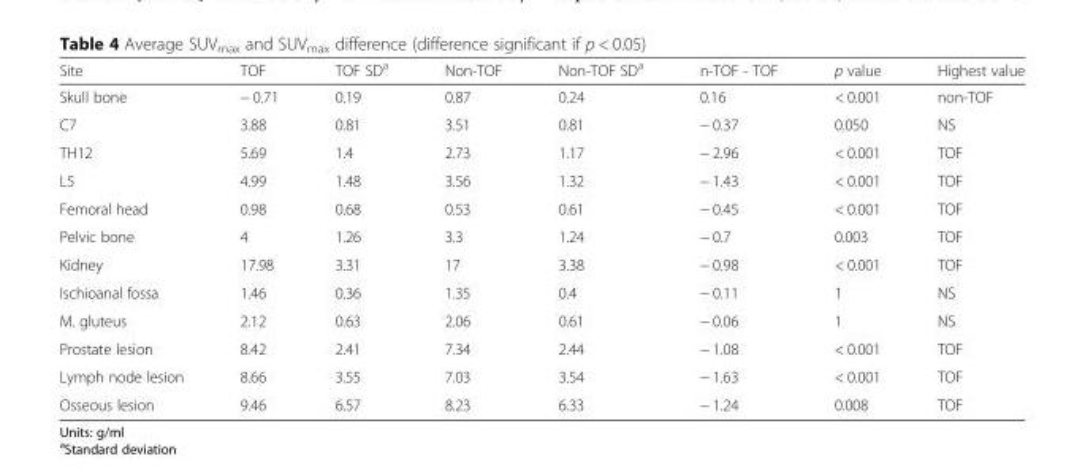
<table><thead><tr><td>Site</td><td>TOF</td><td>TOF SD<sup>a</sup></td><td>Non-TOF</td><td>Non-TOF SD<sup>a</sup></td><td>n-TOF - TOF</td><td>p value</td><td>Highest value</td></tr></thead><tbody><tr><td>Skull bone</td><td>− 0.71</td><td>0.19</td><td>0.87</td><td>0.24</td><td>0.16</td><td>&lt; 0.001</td><td>non-TOF</td></tr><tr><td>C7</td><td>3.88</td><td>0.81</td><td>3.51</td><td>0.81</td><td>− 0.37</td><td>0.050</td><td>NS</td></tr><tr><td>TH12</td><td>5.69</td><td>1.4</td><td>2.73</td><td>1.17</td><td>− 2.96</td><td>&lt; 0.001</td><td>TOF</td></tr><tr><td>L5</td><td>4.99</td><td>1.48</td><td>3.56</td><td>1.32</td><td>− 1.43</td><td>&lt; 0.001</td><td>TOF</td></tr><tr><td>Femoral head</td><td>0.98</td><td>0.68</td><td>0.53</td><td>0.61</td><td>− 0.45</td><td>&lt; 0.001</td><td>TOF</td></tr><tr><td>Pelvic bone</td><td>4</td><td>1.26</td><td>3.3</td><td>1.24</td><td>− 0.7</td><td>0.003</td><td>TOF</td></tr><tr><td>Kidney</td><td>17.98</td><td>3.31</td><td>17</td><td>3.38</td><td>− 0.98</td><td>&lt; 0.001</td><td>TOF</td></tr><tr><td>Ischioanal fossa</td><td>1.46</td><td>0.36</td><td>1.35</td><td>0.4</td><td>− 0.11</td><td>1</td><td>NS</td></tr><tr><td>M. gluteus</td><td>2.12</td><td>0.63</td><td>2.06</td><td>0.61</td><td>− 0.06</td><td>1</td><td>NS</td></tr><tr><td>Prostate lesion</td><td>8.42</td><td>2.41</td><td>7.34</td><td>2.44</td><td>− 1.08</td><td>&lt; 0.001</td><td>TOF</td></tr><tr><td>Lymph node lesion</td><td>8.66</td><td>3.55</td><td>7.03</td><td>3.54</td><td>− 1.63</td><td>&lt; 0.001</td><td>TOF</td></tr><tr><td>Osseous lesion</td><td>9.46</td><td>6.57</td><td>8.23</td><td>6.33</td><td>− 1.24</td><td>0.008</td><td>TOF</td></tr></tbody></table>